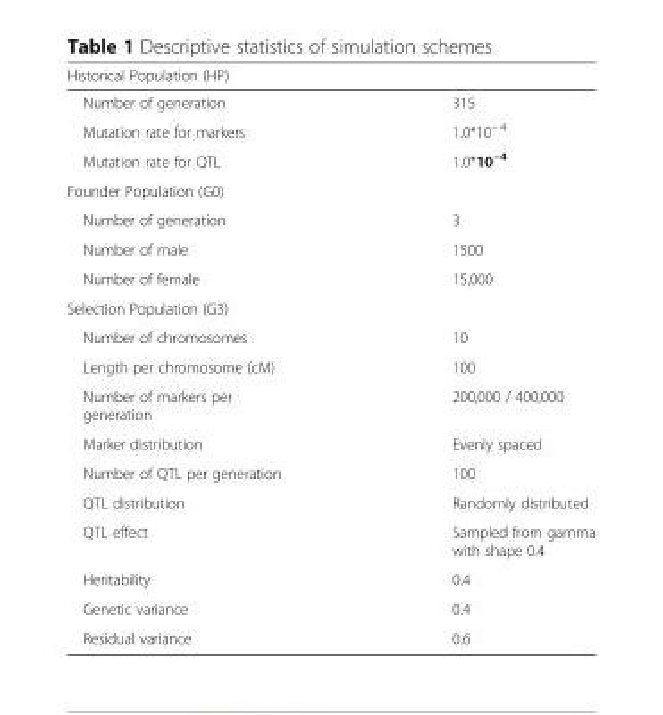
<table><thead><tr><td colspan="2">Historical Population (HP)</td></tr><tr><td>Number of generation</td><td>315</td></tr></thead><tbody><tr><td>Mutation rate for markers</td><td>1.0*10<sup>− 4</sup></td></tr><tr><td>Mutation rate for QTL</td><td>1.0*10<sup>−4</sup></td></tr><tr><td colspan="2">Founder Population (G0)</td></tr><tr><td>Number of generation</td><td>3</td></tr><tr><td>Number of male</td><td>1500</td></tr><tr><td>Number of female</td><td>15,000</td></tr><tr><td colspan="2">Selection Population (G3)</td></tr><tr><td>Number of chromosomes</td><td>10</td></tr><tr><td>Length per chromosome (cM)</td><td>100</td></tr><tr><td>Number of markers per generation</td><td>200,000 / 400,000</td></tr><tr><td>Marker distribution</td><td>Evenly spaced</td></tr><tr><td>Number of QTL per generation</td><td>100</td></tr><tr><td>QTL distribution</td><td>Randomly distributed</td></tr><tr><td>QTL effect</td><td>Sampled from gamma with shape 0.4</td></tr><tr><td>Heritability</td><td>0.4</td></tr><tr><td>Genetic variance</td><td>0.4</td></tr><tr><td>Residual variance</td><td>0.6</td></tr></tbody></table>